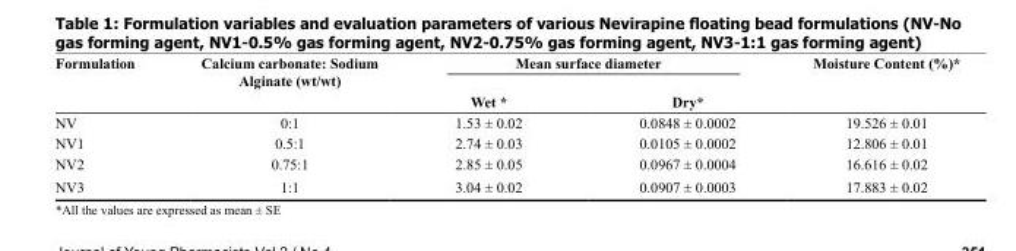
<table><thead><tr><td rowspan="2">Formulation</td><td rowspan="2">Calcium carbonate: Sodium Alginate (wt/wt)</td><td colspan="2">Mean surface diameter</td><td rowspan="2">Moisture Content (%)*</td></tr><tr><td>Wet *</td><td>Dry*</td></tr></thead><tbody><tr><td>NV</td><td>0:1</td><td>1.53 ± 0.02</td><td>0.0848 ± 0.0002</td><td>19.526 ± 0.01</td></tr><tr><td>NV1</td><td>0.5:1</td><td>2.74 ± 0.03</td><td>0.0105 ± 0.0002</td><td>12.806 ± 0.01</td></tr><tr><td>NV2</td><td>0.75:1</td><td>2.85 ± 0.05</td><td>0.0967 ± 0.0004</td><td>16.616 ± 0.02</td></tr><tr><td>NV3</td><td>1:1</td><td>3.04 ± 0.02</td><td>0.0907 ± 0.0003</td><td>17.883 ± 0.02</td></tr></tbody></table>